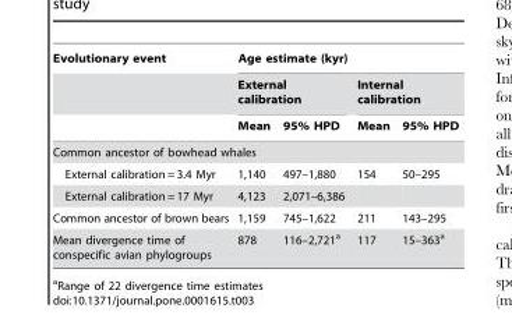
<table><thead><tr><td rowspan="3">Evolutionary event</td><td colspan="4">Age estimate (kyr)</td></tr><tr><td colspan="2">External calibration</td><td colspan="2">Internal calibration</td></tr><tr><td>Mean</td><td>95% HPD</td><td>Mean</td><td>95% HPD</td></tr></thead><tbody><tr><td colspan="5">Common ancestor of bowhead whales</td></tr><tr><td>External calibration = 3.4 Myr</td><td>1,140</td><td>497–1,880</td><td>154</td><td>50–295</td></tr><tr><td>External calibration = 17 Myr</td><td>4,123</td><td>2,071–6,386</td><td></td><td></td></tr><tr><td>Common ancestor of brown bears</td><td>1,159</td><td>745–1,622</td><td>211</td><td>143–295</td></tr><tr><td>Mean divergence time of conspecific avian phylogroups</td><td>878</td><td>116–2,721<sup>a</sup></td><td>117</td><td>15–363<sup>a</sup></td></tr></tbody></table>